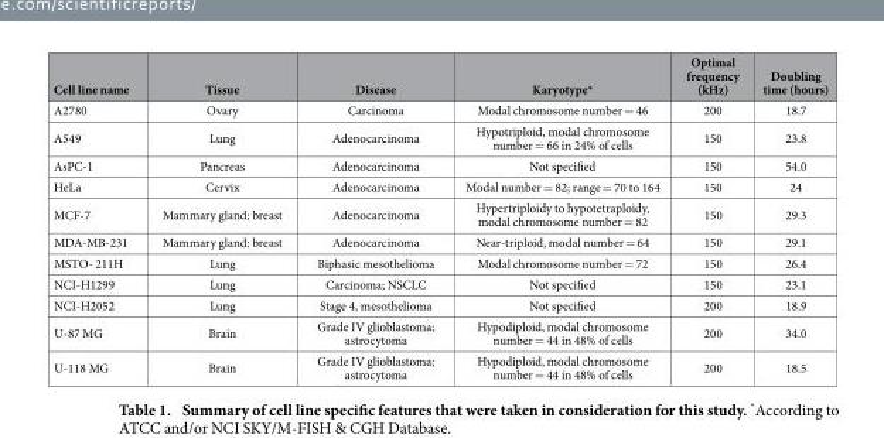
<table><thead><tr><td>Cell line name</td><td>Tissue</td><td>Disease</td><td>Karyotype*</td><td>Optimal frequency (kHz)</td><td>Doubling time (hours)</td></tr></thead><tbody><tr><td>A2780</td><td>Ovary</td><td>Carcinoma</td><td>Modal chromosome number = 46</td><td>200</td><td>18.7</td></tr><tr><td>A549</td><td>Lung</td><td>Adenocarcinoma</td><td>Hypotriploid, modal chromosome number = 66 in 24% of cells</td><td>150</td><td>23.8</td></tr><tr><td>AsPC-1</td><td>Pancreas</td><td>Adenocarcinoma</td><td>Not specified</td><td>150</td><td>54.0</td></tr><tr><td>HeLa</td><td>Cervix</td><td>Adenocarcinoma</td><td>Modal number = 82; range = 70 to 164</td><td>150</td><td>24</td></tr><tr><td>MCF-7</td><td>Mammary gland; breast</td><td>Adenocarcinoma</td><td>Hypertriploidy to hypotetraploidy, modal chromosome number = 82</td><td>150</td><td>29.3</td></tr><tr><td>MDA-MB-231</td><td>Mammary gland: breast</td><td>Adenocarcinoma</td><td>Near-triploid, modal number = 64</td><td>150</td><td>29.1</td></tr><tr><td>MSTO- 211H</td><td>Lung</td><td>Biphasic mesothelioma</td><td>Modal chromosome number = 72</td><td>150</td><td>26.4</td></tr><tr><td>NCI-H1299</td><td>Lung</td><td>Carcinoma; NSCLC</td><td>Not specified</td><td>150</td><td>23.1</td></tr><tr><td>NCI-H2052</td><td>Lung</td><td>Stage 4, mesothelioma</td><td>Not specified</td><td>200</td><td>18.9</td></tr><tr><td>U-87 MG</td><td>Brain</td><td>Grade IV glioblastoma; astrocytoma</td><td>Hypodiploid, modal chromosome number = 44 in 48% of cells</td><td>200</td><td>34.0</td></tr><tr><td>U-118 MG</td><td>Brain</td><td>Grade IV glioblastoma; astrocytoma</td><td>Hypodiploid, modal chromosome number = 44 in 48% of cells</td><td>200</td><td>18.5</td></tr></tbody></table>